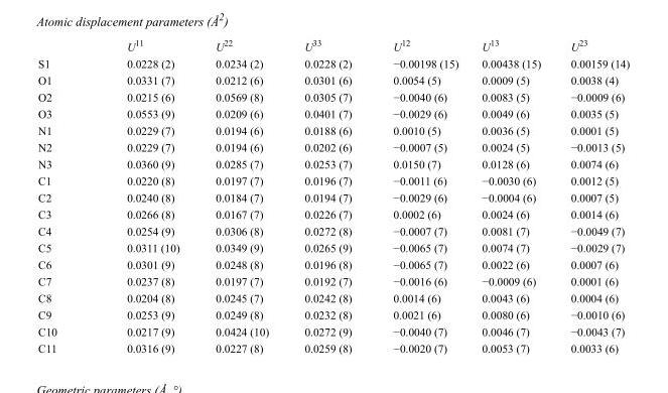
<table><thead><tr><td></td><td>U<sup>11</sup></td><td>U<sup>22</sup></td><td>U<sup>33</sup></td><td>U<sup>12</sup></td><td>U<sup>13</sup></td><td>U<sup>23</sup></td></tr></thead><tbody><tr><td>S1</td><td>0.0228 (2)</td><td>0.0234 (2)</td><td>0.0228 (2)</td><td>−0.00198 (15)</td><td>0.00438 (15)</td><td>0.00159 (14)</td></tr><tr><td>O1</td><td>0.0331 (7)</td><td>0.0212 (6)</td><td>0.0301 (6)</td><td>0.0054 (5)</td><td>0.0009 (5)</td><td>0.0038 (4)</td></tr><tr><td>O2</td><td>0.0215 (6)</td><td>0.0569 (8)</td><td>0.0305 (7)</td><td>−0.0040 (6)</td><td>0.0083 (5)</td><td>−0.0009 (6)</td></tr><tr><td>O3</td><td>0.0553 (9)</td><td>0.0209 (6)</td><td>0.0401 (7)</td><td>−0.0029 (6)</td><td>0.0049 (6)</td><td>0.0035 (5)</td></tr><tr><td>N1</td><td>0.0229 (7)</td><td>0.0194 (6)</td><td>0.0188 (6)</td><td>0.0010 (5)</td><td>0.0036 (5)</td><td>0.0001 (5)</td></tr><tr><td>N2</td><td>0.0229 (7)</td><td>0.0194 (6)</td><td>0.0202 (6)</td><td>−0.0007 (5)</td><td>0.0024 (5)</td><td>−0.0013 (5)</td></tr><tr><td>N3</td><td>0.0360 (9)</td><td>0.0285 (7)</td><td>0.0253 (7)</td><td>0.0150 (7)</td><td>0.0128 (6)</td><td>0.0074 (6)</td></tr><tr><td>C1</td><td>0.0220 (8)</td><td>0.0197 (7)</td><td>0.0196 (7)</td><td>−0.0011 (6)</td><td>−0.0030 (6)</td><td>0.0012 (5)</td></tr><tr><td>C2</td><td>0.0240 (8)</td><td>0.0184 (7)</td><td>0.0194 (7)</td><td>−0.0029 (6)</td><td>−0.0004 (6)</td><td>0.0007 (5)</td></tr><tr><td>C3</td><td>0.0266 (8)</td><td>0.0167 (7)</td><td>0.0226 (7)</td><td>0.0002 (6)</td><td>0.0024 (6)</td><td>0.0014 (6)</td></tr><tr><td>C4</td><td>0.0254 (9)</td><td>0.0306 (8)</td><td>0.0272 (8)</td><td>−0.0007 (7)</td><td>0.0081 (7)</td><td>−0.0049 (7)</td></tr><tr><td>C5</td><td>0.0311 (10)</td><td>0.0349 (9)</td><td>0.0265 (9)</td><td>−0.0065 (7)</td><td>0.0074 (7)</td><td>−0.0029 (7)</td></tr><tr><td>C6</td><td>0.0301 (9)</td><td>0.0248 (8)</td><td>0.0196 (8)</td><td>−0.0065 (7)</td><td>0.0022 (6)</td><td>0.0007 (6)</td></tr><tr><td>C7</td><td>0.0237 (8)</td><td>0.0197 (7)</td><td>0.0192 (7)</td><td>−0.0016 (6)</td><td>−0.0009 (6)</td><td>0.0001 (6)</td></tr><tr><td>C8</td><td>0.0204 (8)</td><td>0.0245 (7)</td><td>0.0242 (8)</td><td>0.0014 (6)</td><td>0.0043 (6)</td><td>0.0004 (6)</td></tr><tr><td>C9</td><td>0.0253 (9)</td><td>0.0249 (8)</td><td>0.0232 (8)</td><td>0.0021 (6)</td><td>0.0080 (6)</td><td>−0.0010 (6)</td></tr><tr><td>C10</td><td>0.0217 (9)</td><td>0.0424 (10)</td><td>0.0272 (9)</td><td>−0.0040 (7)</td><td>0.0046 (7)</td><td>−0.0043 (7)</td></tr><tr><td>C11</td><td>0.0316 (9)</td><td>0.0227 (8)</td><td>0.0259 (8)</td><td>−0.0020 (7)</td><td>0.0053 (7)</td><td>0.0033 (6)</td></tr></tbody></table>